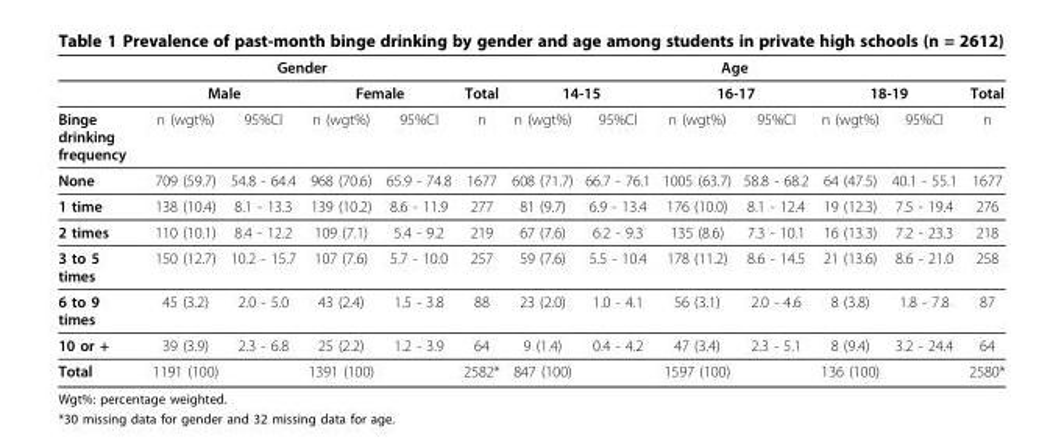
<table><thead><tr><td rowspan="3">Binge drinking frequency</td><td colspan="4">Gender</td><td rowspan="3">Total n</td><td colspan="6">Age</td><td rowspan="3">Total n</td></tr><tr><td colspan="2">Male</td><td colspan="2">Female</td><td colspan="2">14-15</td><td colspan="2">16-17</td><td colspan="2">18-19</td></tr><tr><td>n (wgt%)</td><td>95%CI</td><td>n (wgt%)</td><td>95%CI</td><td>n (wgt%)</td><td>95%CI</td><td>n (wgt%)</td><td>95%CI</td><td>n (wgt%)</td><td>95%CI</td></tr></thead><tbody><tr><td>None</td><td>709 (59.7)</td><td>54.8 - 64.4</td><td>968 (70.6)</td><td>65.9 - 74.8</td><td>1677</td><td>608 (71.7)</td><td>66.7 - 76.1</td><td>1005 (63.7)</td><td>58.8 - 68.2</td><td>64 (47.5)</td><td>40.1 - 55.1</td><td>1677</td></tr><tr><td>1 time</td><td>138 (10.4)</td><td>8.1 - 13.3</td><td>139 (10.2)</td><td>8.6 - 11.9</td><td>277</td><td>81 (9.7)</td><td>6.9 - 13.4</td><td>176 (10.0)</td><td>8.1 - 12.4</td><td>19 (12.3)</td><td>7.5 - 19.4</td><td>276</td></tr><tr><td>2 times</td><td>110 (10.1)</td><td>8.4 - 12.2</td><td>109 (7.1)</td><td>5.4 - 9.2</td><td>219</td><td>67 (7.6)</td><td>6.2 - 9.3</td><td>135 (8.6)</td><td>7.3 - 10.1</td><td>16 (13.3)</td><td>7.2 - 23.3</td><td>218</td></tr><tr><td>3 to 5 times</td><td>150 (12.7)</td><td>10.2 - 15.7</td><td>107 (7.6)</td><td>5.7 - 10.0</td><td>257</td><td>59 (7.6)</td><td>5.5 - 10.4</td><td>178 (11.2)</td><td>8.6 - 14.5</td><td>21 (13.6)</td><td>8.6 - 21.0</td><td>258</td></tr><tr><td>6 to 9 times</td><td>45 (3.2)</td><td>2.0 - 5.0</td><td>43 (2.4)</td><td>1.5 - 3.8</td><td>88</td><td>23 (2.0)</td><td>1.0 - 4.1</td><td>56 (3.1)</td><td>2.0 - 4.6</td><td>8 (3.8)</td><td>1.8 - 7.8</td><td>87</td></tr><tr><td>10 or +</td><td>39 (3.9)</td><td>2.3 - 6.8</td><td>25 (2.2)</td><td>1.2 - 3.9</td><td>64</td><td>9 (1.4)</td><td>0.4 - 4.2</td><td>47 (3.4)</td><td>2.3 - 5.1</td><td>8 (9.4)</td><td>3.2 - 24.4</td><td>64</td></tr><tr><td>Total</td><td>1191 (100)</td><td></td><td>1391 (100)</td><td></td><td>2582*</td><td>847 (100)</td><td></td><td>1597 (100)</td><td></td><td>136 (100)</td><td></td><td>2580*</td></tr></tbody></table>